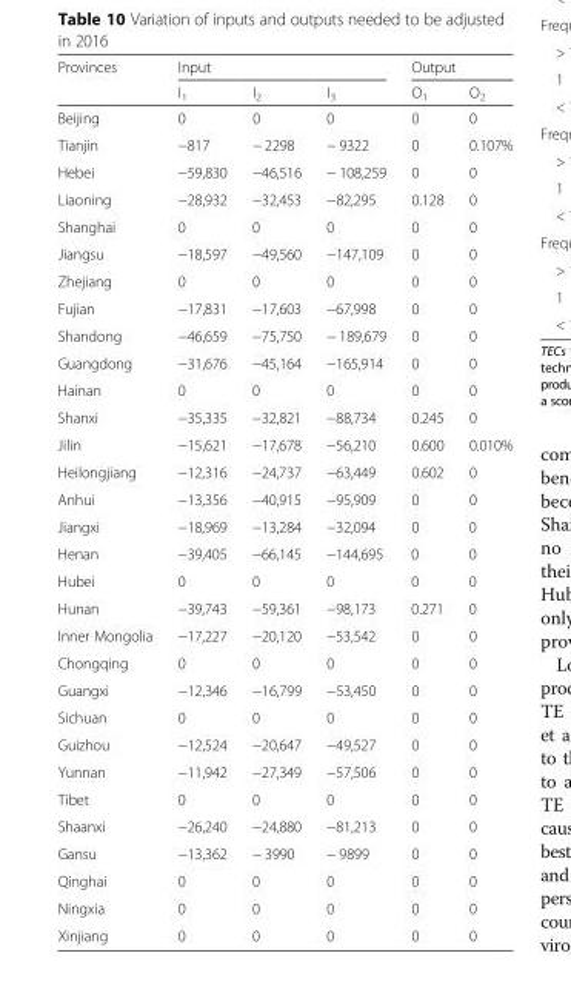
<table><thead><tr><td rowspan="2">Provinces</td><td colspan="3">Input</td><td colspan="2">Output</td></tr><tr><td>I<sub>1</sub></td><td>I<sub>2</sub></td><td>I<sub>3</sub></td><td>O<sub>1</sub></td><td>O<sub>2</sub></td></tr></thead><tbody><tr><td>Beijing</td><td>0</td><td>0</td><td>0</td><td>0</td><td>0</td></tr><tr><td>Tianjin</td><td>−817</td><td>− 2298</td><td>− 9322</td><td>0</td><td>0.107%</td></tr><tr><td>Hebei</td><td>−59,830</td><td>−46,516</td><td>− 108,259</td><td>0</td><td>0</td></tr><tr><td>Liaoning</td><td>−28,932</td><td>−32,453</td><td>−82,295</td><td>0.128</td><td>0</td></tr><tr><td>Shanghai</td><td>0</td><td>0</td><td>0</td><td>0</td><td>0</td></tr><tr><td>Jiangsu</td><td>−18,597</td><td>−49,560</td><td>−147,109</td><td>0</td><td>0</td></tr><tr><td>Zhejiang</td><td>0</td><td>0</td><td>0</td><td>0</td><td>0</td></tr><tr><td>Fujian</td><td>−17,831</td><td>−17,603</td><td>−67,998</td><td>0</td><td>0</td></tr><tr><td>Shandong</td><td>−46,659</td><td>−75,750</td><td>− 189,679</td><td>0</td><td>0</td></tr><tr><td>Guangdong</td><td>−31,676</td><td>−45,164</td><td>−165,914</td><td>0</td><td>0</td></tr><tr><td>Hainan</td><td>0</td><td>0</td><td>0</td><td>0</td><td>0</td></tr><tr><td>Shanxi</td><td>−35,335</td><td>−32,821</td><td>−88,734</td><td>0.245</td><td>0</td></tr><tr><td>Jilin</td><td>−15,621</td><td>−17,678</td><td>−56,210</td><td>0.600</td><td>0.010%</td></tr><tr><td>Heilongjiang</td><td>−12,316</td><td>−24,737</td><td>−63,449</td><td>0.602</td><td>0</td></tr><tr><td>Anhui</td><td>−13,356</td><td>−40,915</td><td>−95,909</td><td>0</td><td>0</td></tr><tr><td>Jiangxi</td><td>−18,969</td><td>−13,284</td><td>−32,094</td><td>0</td><td>0</td></tr><tr><td>Henan</td><td>−39,405</td><td>−66,145</td><td>−144,695</td><td>0</td><td>0</td></tr><tr><td>Hubei</td><td>0</td><td>0</td><td>0</td><td>0</td><td>0</td></tr><tr><td>Hunan</td><td>−39,743</td><td>−59,361</td><td>−98,173</td><td>0.271</td><td>0</td></tr><tr><td>Inner Mongolia</td><td>−17,227</td><td>−20,120</td><td>−53,542</td><td>0</td><td>0</td></tr><tr><td>Chongqing</td><td>0</td><td>0</td><td>0</td><td>0</td><td>0</td></tr><tr><td>Guangxi</td><td>−12,346</td><td>−16,799</td><td>−53,450</td><td>0</td><td>0</td></tr><tr><td>Sichuan</td><td>0</td><td>0</td><td>0</td><td>0</td><td>0</td></tr><tr><td>Guizhou</td><td>−12,524</td><td>−20,647</td><td>−49,527</td><td>0</td><td>0</td></tr><tr><td>Yunnan</td><td>−11,942</td><td>−27,349</td><td>−57,506</td><td>0</td><td>0</td></tr><tr><td>Tibet</td><td>0</td><td>0</td><td>0</td><td>0</td><td>0</td></tr><tr><td>Shaanxi</td><td>−26,240</td><td>−24,880</td><td>−81,213</td><td>0</td><td>0</td></tr><tr><td>Gansu</td><td>−13,362</td><td>− 3990</td><td>− 9899</td><td>0</td><td>0</td></tr><tr><td>Qinghai</td><td>0</td><td>0</td><td>0</td><td>0</td><td>0</td></tr><tr><td>Ningxia</td><td>0</td><td>0</td><td>0</td><td>0</td><td>0</td></tr><tr><td>Xinjiang</td><td>0</td><td>0</td><td>0</td><td>0</td><td>0</td></tr></tbody></table>